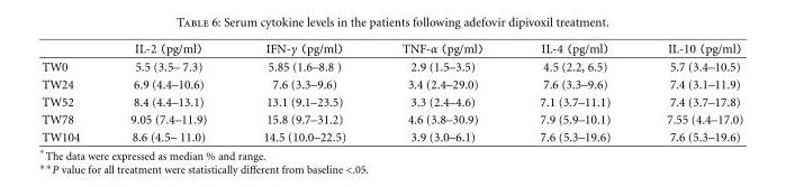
<table><thead><tr><td></td><td>IL-2 (pg/ml)</td><td>IFN-γ (pg/ml)</td><td>TNF-α (pg/ml)</td><td>IL-4 (pg/ml)</td><td>IL-10 (pg/ml)</td></tr></thead><tbody><tr><td>TW0</td><td>5.5 (3.5– 7.3)</td><td>5.85 (1.6–8.8 )</td><td>2.9 (1.5–3.5)</td><td>4.5 (2.2, 6.5)</td><td>5.7 (3.4–10.5)</td></tr><tr><td>TW24</td><td>6.9 (4.4–10.6)</td><td>7.6 (3.3–9.6)</td><td>3.4 (2.4–29.0)</td><td>7.6 (3.3–9.6)</td><td>7.4 (3.1–11.9)</td></tr><tr><td>TW52</td><td>8.4 (4.4–13.1)</td><td>13.1 (9.1–23.5)</td><td>3.3 (2.4–4.6)</td><td>7.1 (3.7–11.1)</td><td>7.4 (3.7–17.8)</td></tr><tr><td>TW78</td><td>9.05 (7.4–11.9)</td><td>15.8 (9.7–31.2)</td><td>4.6 (3.8–30.9)</td><td>7.9 (5.9–10.1)</td><td>7.55 (4.4–17.0)</td></tr><tr><td>TW104</td><td>8.6 (4.5– 11.0)</td><td>14.5 (10.0–22.5)</td><td>3.9 (3.0–6.1)</td><td>7.6 (5.3–19.6)</td><td>7.6 (5.3–19.6)</td></tr></tbody></table>